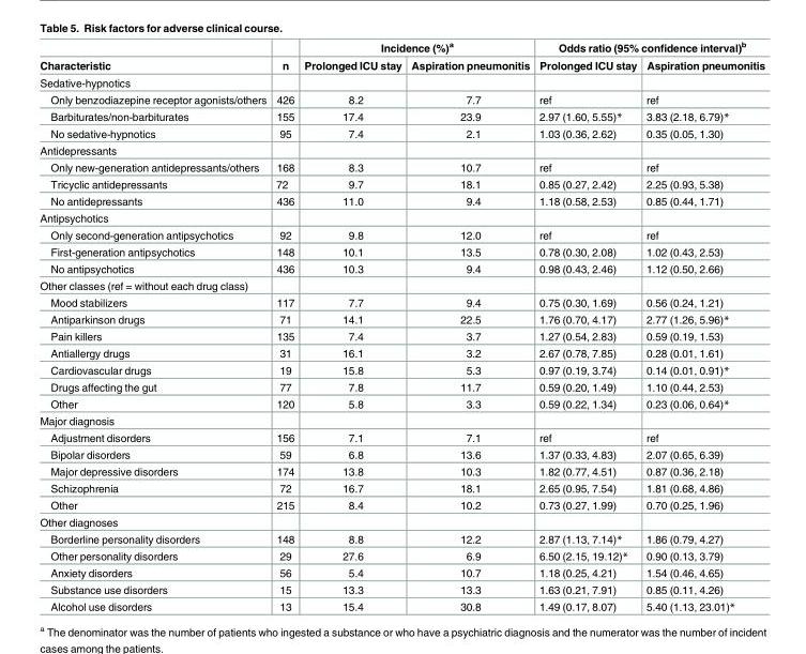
<table><thead><tr><td rowspan="2">Characteristic</td><td rowspan="2">n</td><td colspan="2">Incidence (%)<sup>a</sup></td><td colspan="2">Odds ratio (95% confidence interval)<sup>b</sup></td></tr><tr><td>Prolonged ICU stay</td><td>Aspiration pneumonitis</td><td>Prolonged ICU stay</td><td>Aspiration pneumonitis</td></tr></thead><tbody><tr><td colspan="6">Sedative-hypnotics</td></tr><tr><td>Only benzodiazepine receptor agonists/others</td><td>426</td><td>8.2</td><td>7.7</td><td>ref</td><td>ref</td></tr><tr><td>Barbiturates/non-barbiturates</td><td>155</td><td>17.4</td><td>23.9</td><td>2.97 (1.60, 5.55)*</td><td>3.83 (2.18, 6.79)*</td></tr><tr><td>No sedative-hypnotics</td><td>95</td><td>7.4</td><td>2.1</td><td>1.03 (0.36, 2.62)</td><td>0.35 (0.05, 1.30)</td></tr><tr><td colspan="6">Antidepressants</td></tr><tr><td>Only new-generation antidepressants/others</td><td>168</td><td>8.3</td><td>10.7</td><td>ref</td><td>ref</td></tr><tr><td>Tricyclic antidepressants</td><td>72</td><td>9.7</td><td>18.1</td><td>0.85 (0.27, 2.42)</td><td>2.25 (0.93, 5.38)</td></tr><tr><td>No antidepressants</td><td>436</td><td>11.0</td><td>9.4</td><td>1.18 (0.58, 2.53)</td><td>0.85 (0.44, 1.71)</td></tr><tr><td colspan="6">Antipsychotics</td></tr><tr><td>Only second-generation antipsychotics</td><td>92</td><td>9.8</td><td>12.0</td><td>ref</td><td>ref</td></tr><tr><td>First-generation antipsychotics</td><td>148</td><td>10.1</td><td>13.5</td><td>0.78 (0.30, 2.08)</td><td>1.02 (0.43, 2.53)</td></tr><tr><td>No antipsychotics</td><td>436</td><td>10.3</td><td>9.4</td><td>0.98 (0.43, 2.46)</td><td>1.12 (0.50, 2.66)</td></tr><tr><td colspan="6">Other classes (ref = without each drug class)</td></tr><tr><td>Mood stabilizers</td><td>117</td><td>7.7</td><td>9.4</td><td>0.75 (0.30, 1.69)</td><td>0.56 (0.24, 1.21)</td></tr><tr><td>Antiparkinson drugs</td><td>71</td><td>14.1</td><td>22.5</td><td>1.76 (0.70, 4.17)</td><td>2.77 (1.26, 5.96)*</td></tr><tr><td>Pain killers</td><td>135</td><td>7.4</td><td>3.7</td><td>1.27 (0.54, 2.83)</td><td>0.59 (0.19, 1.53)</td></tr><tr><td>Antiallergy drugs</td><td>31</td><td>16.1</td><td>3.2</td><td>2.67 (0.78, 7.85)</td><td>0.28 (0.01, 1.61)</td></tr><tr><td>Cardiovascular drugs</td><td>19</td><td>15.8</td><td>5.3</td><td>0.97 (0.19, 3.74)</td><td>0.14 (0.01, 0.91)*</td></tr><tr><td>Drugs affecting the gut</td><td>77</td><td>7.8</td><td>11.7</td><td>0.59 (0.20, 1.49)</td><td>1.10 (0.44, 2.53)</td></tr><tr><td>Other</td><td>120</td><td>5.8</td><td>3.3</td><td>0.59 (0.22, 1.34)</td><td>0.23 (0.06, 0.64)*</td></tr><tr><td colspan="6">Major diagnosis</td></tr><tr><td>Adjustment disorders</td><td>156</td><td>7.1</td><td>7.1</td><td>ref</td><td>ref</td></tr><tr><td>Bipolar disorders</td><td>59</td><td>6.8</td><td>13.6</td><td>1.37 (0.33, 4.83)</td><td>2.07 (0.65, 6.39)</td></tr><tr><td>Major depressive disorders</td><td>174</td><td>13.8</td><td>10.3</td><td>1.82 (0.77, 4.51)</td><td>0.87 (0.36, 2.18)</td></tr><tr><td>Schizophrenia</td><td>72</td><td>16.7</td><td>18.1</td><td>2.65 (0.95, 7.54)</td><td>1.81 (0.68, 4.86)</td></tr><tr><td>Other</td><td>215</td><td>8.4</td><td>10.2</td><td>0.73 (0.27, 1.99)</td><td>0.70 (0.25, 1.96)</td></tr><tr><td colspan="6">Other diagnoses</td></tr><tr><td>Borderline personality disorders</td><td>148</td><td>8.8</td><td>12.2</td><td>2.87 (1.13, 7.14)*</td><td>1.86 (0.79, 4.27)</td></tr><tr><td>Other personality disorders</td><td>29</td><td>27.6</td><td>6.9</td><td>6.50 (2.15, 19.12)*</td><td>0.90 (0.13, 3.79)</td></tr><tr><td>Anxiety disorders</td><td>56</td><td>5.4</td><td>10.7</td><td>1.18 (0.25, 4.21)</td><td>1.54 (0.46, 4.65)</td></tr><tr><td>Substance use disorders</td><td>15</td><td>13.3</td><td>13.3</td><td>1.63 (0.21, 7.91)</td><td>0.85 (0.11, 4.26)</td></tr><tr><td>Alcohol use disorders</td><td>13</td><td>15.4</td><td>30.8</td><td>1.49 (0.17, 8.07)</td><td>5.40 (1.13, 23.01)*</td></tr></tbody></table>